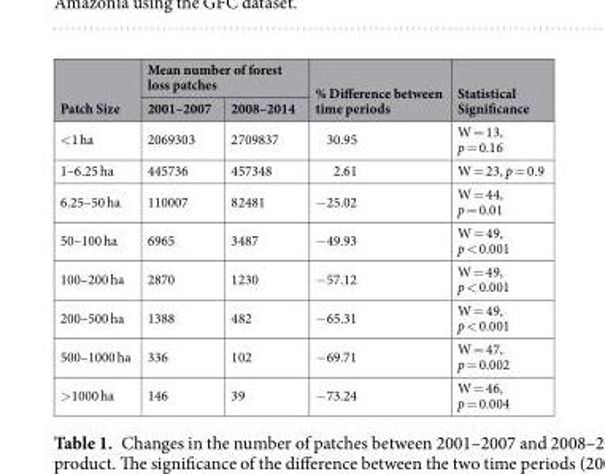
<table><thead><tr><td rowspan="2">Patch Size</td><td colspan="2">Mean number of forest loss patches</td><td rowspan="2">% Difference between time periods</td><td rowspan="2">Statistical Significance</td></tr><tr><td>2001–2007</td><td>2008–2014</td></tr></thead><tbody><tr><td>&lt;1 ha</td><td>2069303</td><td>2709837</td><td>30.95</td><td>W = 13, p = 0.16</td></tr><tr><td>1–6.25 ha</td><td>445736</td><td>457348</td><td>2.61</td><td>W = 23, p = 0.9</td></tr><tr><td>6.25–50 ha</td><td>110007</td><td>82481</td><td>−25.02</td><td>W = 44, p = 0.01</td></tr><tr><td>50–100 ha</td><td>6965</td><td>3487</td><td>−49.93</td><td>W = 49, p &lt; 0.001</td></tr><tr><td>100–200 ha</td><td>2870</td><td>1230</td><td>−57.12</td><td>W = 49, p &lt; 0.001</td></tr><tr><td>200–500 ha</td><td>1388</td><td>482</td><td>−65.31</td><td>W = 49, p &lt; 0.001</td></tr><tr><td>500–1000 ha</td><td>336</td><td>102</td><td>−69.71</td><td>W = 47, p = 0.002</td></tr><tr><td>&gt;1000 ha</td><td>146</td><td>39</td><td>−73.24</td><td>W = 46, p = 0.004</td></tr></tbody></table>